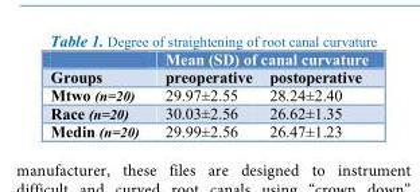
<table><thead><tr><td rowspan="2">Groups</td><td colspan="2">Mean (SD) of canal curvature</td></tr><tr><td>preoperative</td><td>postoperative</td></tr></thead><tbody><tr><td>Mtwo (n=20)</td><td>29.97±2.55</td><td>28.24±2.40</td></tr><tr><td>Race (n=20)</td><td>30.03±2.56</td><td>26.62±1.35</td></tr><tr><td>Medin (n=20)</td><td>29.99±2.56</td><td>26.47±1.23</td></tr></tbody></table>